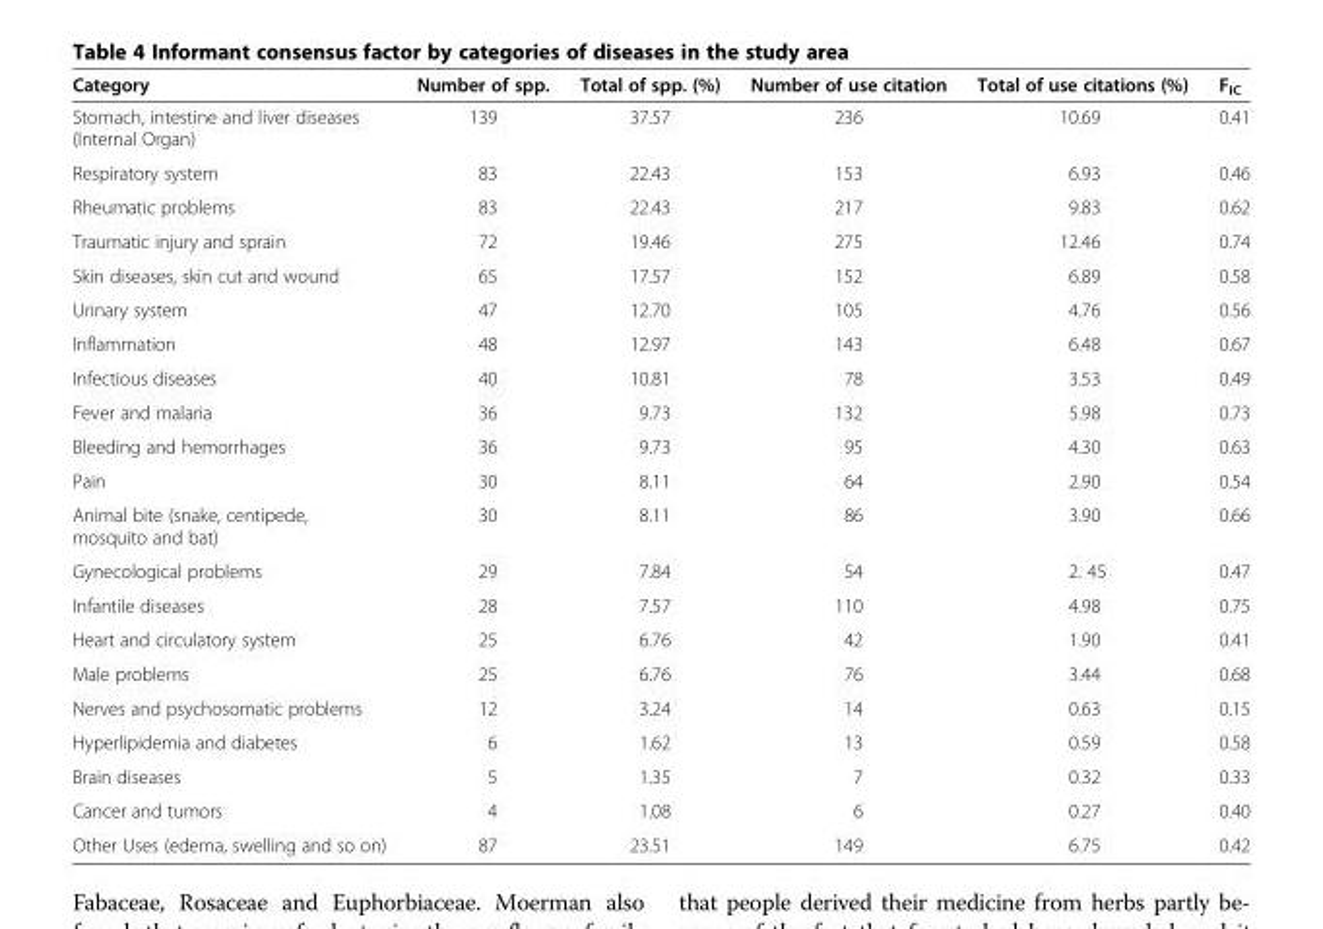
<table><thead><tr><td>Category</td><td>Number of spp.</td><td>Total of spp. (%)</td><td>Number of use citation</td><td>Total of use citations (%)</td><td>F<sub>IC</sub></td></tr></thead><tbody><tr><td>Stomach, intestine and liver diseases (Internal Organ)</td><td>139</td><td>37.57</td><td>236</td><td>10.69</td><td>0.41</td></tr><tr><td>Respiratory system</td><td>83</td><td>22.43</td><td>153</td><td>6.93</td><td>0.46</td></tr><tr><td>Rheumatic problems</td><td>83</td><td>22.43</td><td>217</td><td>9.83</td><td>0.62</td></tr><tr><td>Traumatic injury and sprain</td><td>72</td><td>19.46</td><td>275</td><td>12.46</td><td>0.74</td></tr><tr><td>Skin diseases, skin cut and wound</td><td>65</td><td>17.57</td><td>152</td><td>6.89</td><td>0.58</td></tr><tr><td>Urinary system</td><td>47</td><td>12.70</td><td>105</td><td>4.76</td><td>0.56</td></tr><tr><td>Inflammation</td><td>48</td><td>12.97</td><td>143</td><td>6.48</td><td>0.67</td></tr><tr><td>Infectious diseases</td><td>40</td><td>10.81</td><td>78</td><td>3.53</td><td>0.49</td></tr><tr><td>Fever and malaria</td><td>36</td><td>9.73</td><td>132</td><td>5.98</td><td>0.73</td></tr><tr><td>Bleeding and hemorrhages</td><td>36</td><td>9.73</td><td>95</td><td>4.30</td><td>0.63</td></tr><tr><td>Pain</td><td>30</td><td>8.11</td><td>64</td><td>2.90</td><td>0.54</td></tr><tr><td>Animal bite (snake, centipede, mosquito and bat)</td><td>30</td><td>8.11</td><td>86</td><td>3.90</td><td>0.66</td></tr><tr><td>Gynecological problems</td><td>29</td><td>7.84</td><td>54</td><td>2. 45</td><td>0.47</td></tr><tr><td>Infantile diseases</td><td>28</td><td>7.57</td><td>110</td><td>4.98</td><td>0.75</td></tr><tr><td>Heart and circulatory system</td><td>25</td><td>6.76</td><td>42</td><td>1.90</td><td>0.41</td></tr><tr><td>Male problems</td><td>25</td><td>6.76</td><td>76</td><td>3.44</td><td>0.68</td></tr><tr><td>Nerves and psychosomatic problems</td><td>12</td><td>3.24</td><td>14</td><td>0.63</td><td>0.15</td></tr><tr><td>Hyperlipidemia and diabetes</td><td>6</td><td>1.62</td><td>13</td><td>0.59</td><td>0.58</td></tr><tr><td>Brain diseases</td><td>5</td><td>1.35</td><td>7</td><td>0.32</td><td>0.33</td></tr><tr><td>Cancer and tumors</td><td>4</td><td>1.08</td><td>6</td><td>0.27</td><td>0.40</td></tr><tr><td>Other Uses (edema, swelling and so on)</td><td>87</td><td>23.51</td><td>149</td><td>6.75</td><td>0.42</td></tr></tbody></table>